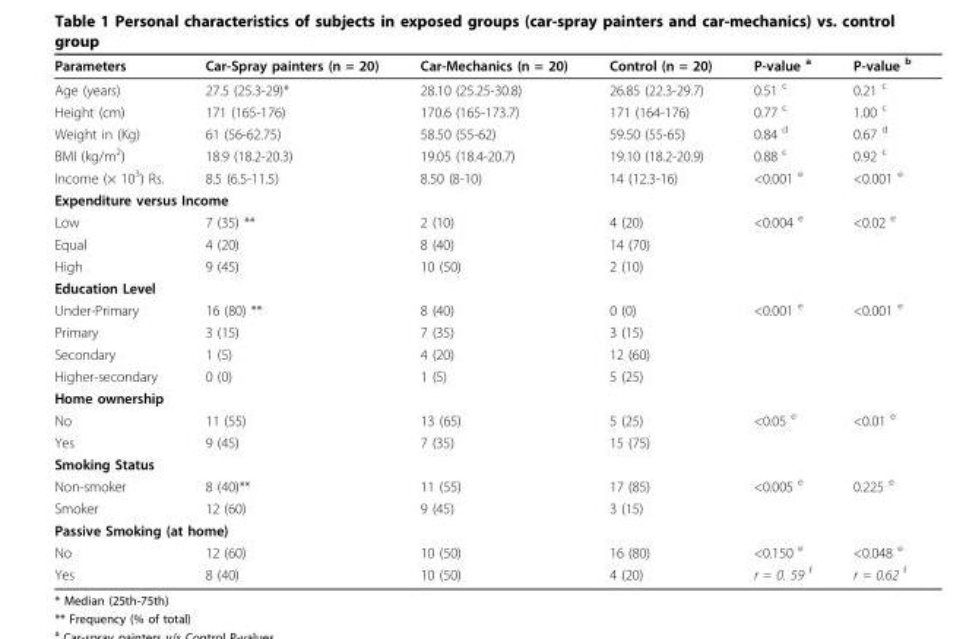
<table><thead><tr><td>Parameters</td><td>Car-Spray painters (n = 20)</td><td>Car-Mechanics (n = 20)</td><td>Control (n = 20)</td><td>P-value <sup>a</sup></td><td>P-value <sup>b</sup></td></tr></thead><tbody><tr><td>Age (years)</td><td>27.5 (25.3-29)*</td><td>28.10 (25.25-30.8)</td><td>26.85 (22.3-29.7)</td><td>0.51 <sup>c</sup></td><td>0.21 <sup>c</sup></td></tr><tr><td>Height (cm)</td><td>171 (165-176)</td><td>170.6 (165-173.7)</td><td>171 (164-176)</td><td>0.77 <sup>c</sup></td><td>1.00 <sup>c</sup></td></tr><tr><td>Weight in (Kg)</td><td>61 (56-62.75)</td><td>58.50 (55-62)</td><td>59.50 (55-65)</td><td>0.84 <sup>d</sup></td><td>0.67 <sup>d</sup></td></tr><tr><td>BMI (kg/m<sup>2</sup>)</td><td>18.9 (18.2-20.3)</td><td>19.05 (18.4-20.7)</td><td>19.10 (18.2-20.9)</td><td>0.88 <sup>c</sup></td><td>0.92 <sup>c</sup></td></tr><tr><td>Income (× 10<sup>3</sup>) Rs.</td><td>8.5 (6.5-11.5)</td><td>8.50 (8-10)</td><td>14 (12.3-16)</td><td>&lt;0.001 <sup>e</sup></td><td>&lt;0.001 <sup>e</sup></td></tr><tr><td colspan="6">Expenditure versus Income</td></tr><tr><td>Low</td><td>7 (35) **</td><td>2 (10)</td><td>4 (20)</td><td>&lt;0.004 <sup>e</sup></td><td>&lt;0.02 <sup>e</sup></td></tr><tr><td>Equal</td><td>4 (20)</td><td>8 (40)</td><td>14 (70)</td><td></td><td></td></tr><tr><td>High</td><td>9 (45)</td><td>10 (50)</td><td>2 (10)</td><td></td><td></td></tr><tr><td colspan="6">Education Level</td></tr><tr><td>Under-Primary</td><td>16 (80) **</td><td>8 (40)</td><td>0 (0)</td><td>&lt;0.001 <sup>e</sup></td><td>&lt;0.001 <sup>e</sup></td></tr><tr><td>Primary</td><td>3 (15)</td><td>7 (35)</td><td>3 (15)</td><td></td><td></td></tr><tr><td>Secondary</td><td>1 (5)</td><td>4 (20)</td><td>12 (60)</td><td></td><td></td></tr><tr><td>Higher-secondary</td><td>0 (0)</td><td>1 (5)</td><td>5 (25)</td><td></td><td></td></tr><tr><td colspan="6">Home ownership</td></tr><tr><td>No</td><td>11 (55)</td><td>13 (65)</td><td>5 (25)</td><td>&lt;0.05 <sup>e</sup></td><td>&lt;0.01 <sup>e</sup></td></tr><tr><td>Yes</td><td>9 (45)</td><td>7 (35)</td><td>15 (75)</td><td></td><td></td></tr><tr><td colspan="6">Smoking Status</td></tr><tr><td>Non-smoker</td><td>8 (40)**</td><td>11 (55)</td><td>17 (85)</td><td>&lt;0.005 <sup>e</sup></td><td>0.225 <sup>e</sup></td></tr><tr><td>Smoker</td><td>12 (60)</td><td>9 (45)</td><td>3 (15)</td><td></td><td></td></tr><tr><td colspan="6">Passive Smoking (at home)</td></tr><tr><td>No</td><td>12 (60)</td><td>10 (50)</td><td>16 (80)</td><td>&lt;0.150 <sup>e</sup></td><td>&lt;0.048 <sup>e</sup></td></tr><tr><td>Yes</td><td>8 (40)</td><td>10 (50)</td><td>4 (20)</td><td>r = 0. 59 <sup>f</sup></td><td>r = 0.62 <sup>f</sup></td></tr></tbody></table>